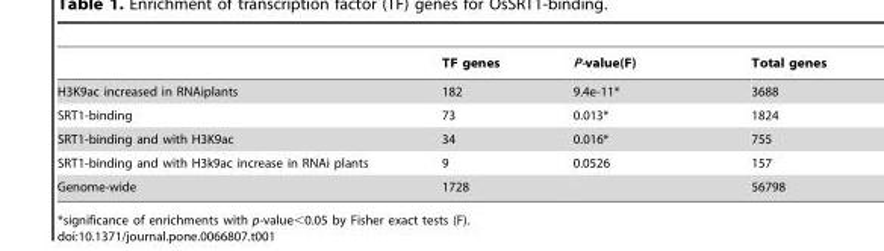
<table><thead><tr><td></td><td>TF genes</td><td>P-value(F)</td><td>Total genes</td></tr></thead><tbody><tr><td>H3K9ac increased in RNAiplants</td><td>182</td><td>9.4e-11*</td><td>3688</td></tr><tr><td>SRT1-binding</td><td>73</td><td>0.013*</td><td>1824</td></tr><tr><td>SRT1-binding and with H3K9ac</td><td>34</td><td>0.016*</td><td>755</td></tr><tr><td>SRT1-binding and with H3k9ac increase in RNAi plants</td><td>9</td><td>0.0526</td><td>157</td></tr><tr><td>Genome-wide</td><td>1728</td><td></td><td>56798</td></tr></tbody></table>